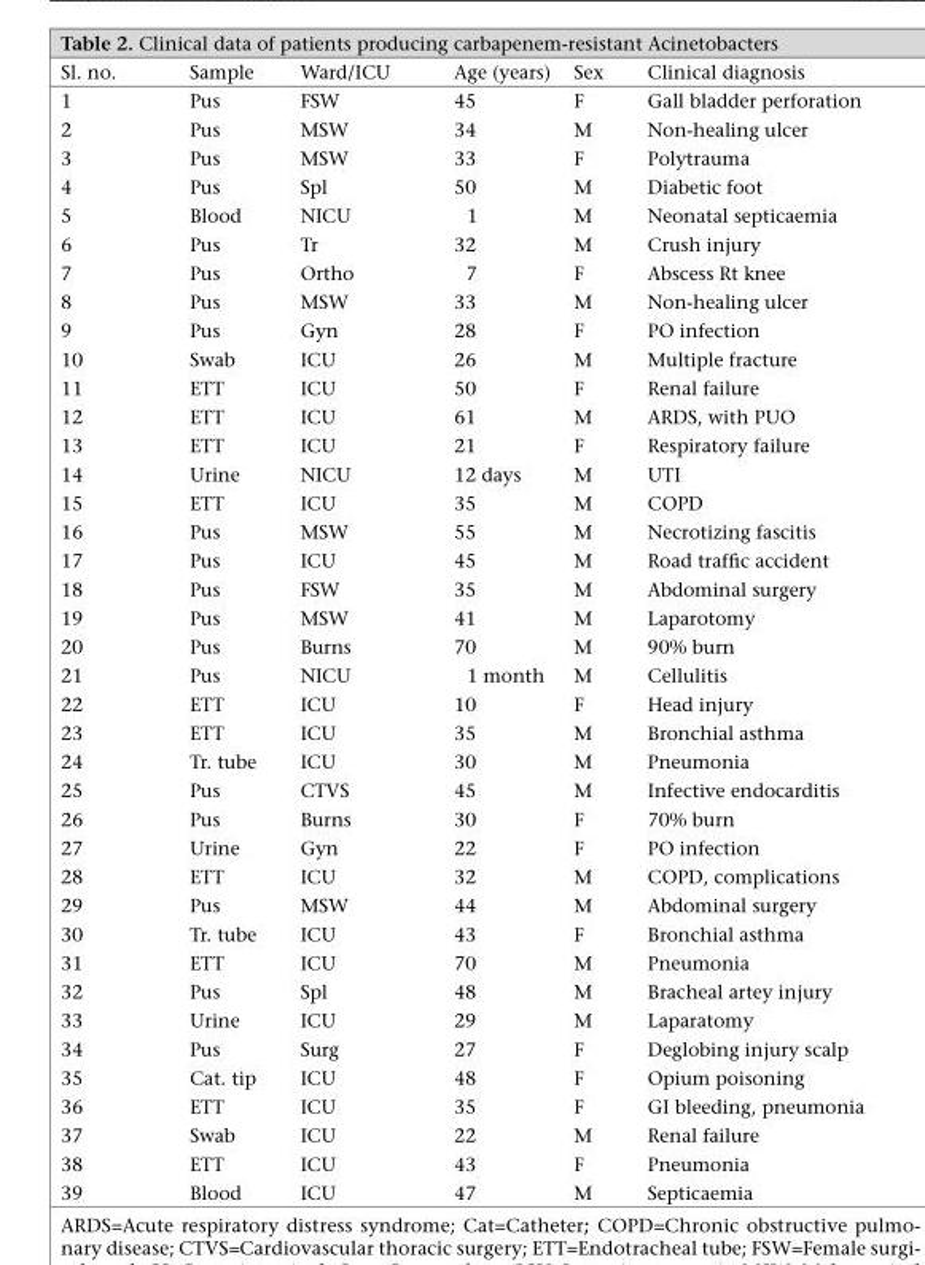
<table><thead><tr><td>Sl. no.</td><td>Sample</td><td>Ward/ICU</td><td>Age (years)</td><td>Sex</td><td>Clinical diagnosis</td></tr></thead><tbody><tr><td>1</td><td>Pus</td><td>FSW</td><td>45</td><td>F</td><td>Gall bladder perforation</td></tr><tr><td>2</td><td>Pus</td><td>MSW</td><td>34</td><td>M</td><td>Non-healing ulcer</td></tr><tr><td>3</td><td>Pus</td><td>MSW</td><td>33</td><td>F</td><td>Polytrauma</td></tr><tr><td>4</td><td>Pus</td><td>Spl</td><td>50</td><td>M</td><td>Diabetic foot</td></tr><tr><td>5</td><td>Blood</td><td>NICU</td><td>1</td><td>M</td><td>Neonatal septicaemia</td></tr><tr><td>6</td><td>Pus</td><td>Tr</td><td>32</td><td>M</td><td>Crush injury</td></tr><tr><td>7</td><td>Pus</td><td>Ortho</td><td>7</td><td>F</td><td>Abscess Rt knee</td></tr><tr><td>8</td><td>Pus</td><td>MSW</td><td>33</td><td>M</td><td>Non-healing ulcer</td></tr><tr><td>9</td><td>Pus</td><td>Gyn</td><td>28</td><td>F</td><td>PO infection</td></tr><tr><td>10</td><td>Swab</td><td>ICU</td><td>26</td><td>M</td><td>Multiple fracture</td></tr><tr><td>11</td><td>ETT</td><td>ICU</td><td>50</td><td>F</td><td>Renal failure</td></tr><tr><td>12</td><td>ETT</td><td>ICU</td><td>61</td><td>M</td><td>ARDS, with PUO</td></tr><tr><td>13</td><td>ETT</td><td>ICU</td><td>21</td><td>F</td><td>Respiratory failure</td></tr><tr><td>14</td><td>Urine</td><td>NICU</td><td>12 days</td><td>M</td><td>UTI</td></tr><tr><td>15</td><td>ETT</td><td>ICU</td><td>35</td><td>M</td><td>COPD</td></tr><tr><td>16</td><td>Pus</td><td>MSW</td><td>55</td><td>M</td><td>Necrotizing fascitis</td></tr><tr><td>17</td><td>Pus</td><td>ICU</td><td>45</td><td>M</td><td>Road traffic accident</td></tr><tr><td>18</td><td>Pus</td><td>FSW</td><td>35</td><td>M</td><td>Abdominal surgery</td></tr><tr><td>19</td><td>Pus</td><td>MSW</td><td>41</td><td>M</td><td>Laparotomy</td></tr><tr><td>20</td><td>Pus</td><td>Burns</td><td>70</td><td>M</td><td>90% burn</td></tr><tr><td>21</td><td>Pus</td><td>NICU</td><td>1 month</td><td>M</td><td>Cellulitis</td></tr><tr><td>22</td><td>ETT</td><td>ICU</td><td>10</td><td>F</td><td>Head injury</td></tr><tr><td>23</td><td>ETT</td><td>ICU</td><td>35</td><td>M</td><td>Bronchial asthma</td></tr><tr><td>24</td><td>Tr. tube</td><td>ICU</td><td>30</td><td>M</td><td>Pneumonia</td></tr><tr><td>25</td><td>Pus</td><td>CTVS</td><td>45</td><td>M</td><td>Infective endocarditis</td></tr><tr><td>26</td><td>Pus</td><td>Burns</td><td>30</td><td>F</td><td>70% burn</td></tr><tr><td>27</td><td>Urine</td><td>Gyn</td><td>22</td><td>F</td><td>PO infection</td></tr><tr><td>28</td><td>ETT</td><td>ICU</td><td>32</td><td>M</td><td>COPD, complications</td></tr><tr><td>29</td><td>Pus</td><td>MSW</td><td>44</td><td>M</td><td>Abdominal surgery</td></tr><tr><td>30</td><td>Tr. tube</td><td>ICU</td><td>43</td><td>F</td><td>Bronchial asthma</td></tr><tr><td>31</td><td>ETT</td><td>ICU</td><td>70</td><td>M</td><td>Pneumonia</td></tr><tr><td>32</td><td>Pus</td><td>Spl</td><td>48</td><td>M</td><td>Bracheal artey injury</td></tr><tr><td>33</td><td>Urine</td><td>ICU</td><td>29</td><td>M</td><td>Laparatomy</td></tr><tr><td>34</td><td>Pus</td><td>Surg</td><td>27</td><td>F</td><td>Deglobing injury scalp</td></tr><tr><td>35</td><td>Cat. tip</td><td>ICU</td><td>48</td><td>F</td><td>Opium poisoning</td></tr><tr><td>36</td><td>ETT</td><td>ICU</td><td>35</td><td>F</td><td>GI bleeding, pneumonia</td></tr><tr><td>37</td><td>Swab</td><td>ICU</td><td>22</td><td>M</td><td>Renal failure</td></tr><tr><td>38</td><td>ETT</td><td>ICU</td><td>43</td><td>F</td><td>Pneumonia</td></tr><tr><td>39</td><td>Blood</td><td>ICU</td><td>47</td><td>M</td><td>Septicaemia</td></tr></tbody></table>